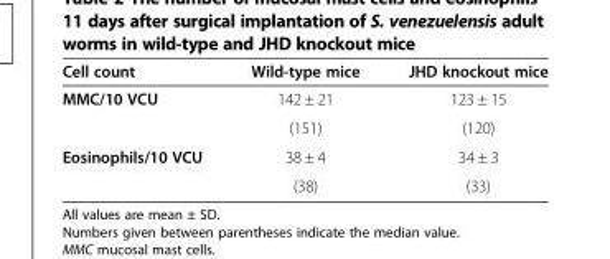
<table><thead><tr><td>Cell count</td><td>Wild-type mice</td><td>JHD knockout mice</td></tr></thead><tbody><tr><td rowspan="2">MMC/10 VCU</td><td>142 ± 21</td><td>123 ± 15</td></tr><tr><td>(151)</td><td>(120)</td></tr><tr><td rowspan="2">Eosinophils/10 VCU</td><td>38 ± 4</td><td>34 ± 3</td></tr><tr><td>(38)</td><td>(33)</td></tr></tbody></table>